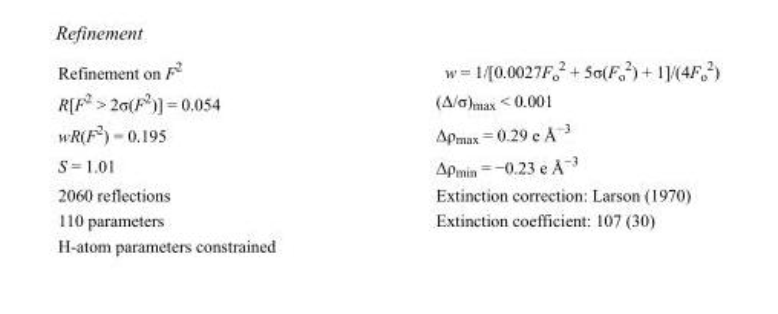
<table><tbody><tr><td>Refinement on F<sup>2</sup></td><td>w = 1/[0.0027F<sub>o</sub> <sup>2</sup> + 5σ(F<sub>o</sub> <sup>2</sup>) + 1]/(4F<sub>o</sub> <sup>2</sup>)</td></tr><tr><td>R[F<sup>2</sup> &gt; 2σ(F<sup>2</sup>)] = 0.054</td><td>(Δ/σ)<sub>max</sub> &lt; 0.001</td></tr><tr><td>wR(F<sup>2</sup>) = 0.195</td><td>Δρ<sub>max</sub> = 0.29 e Å<sup>−3</sup></td></tr><tr><td>S = 1.01</td><td>Δρ<sub>min</sub> = −0.23 e Å<sup>−3</sup></td></tr><tr><td>2060 reflections</td><td>Extinction correction: Larson (1970)</td></tr><tr><td>110 parameters</td><td>Extinction coefficient: 107 (30)</td></tr><tr><td>H-atom parameters constrained</td><td></td></tr></tbody></table>